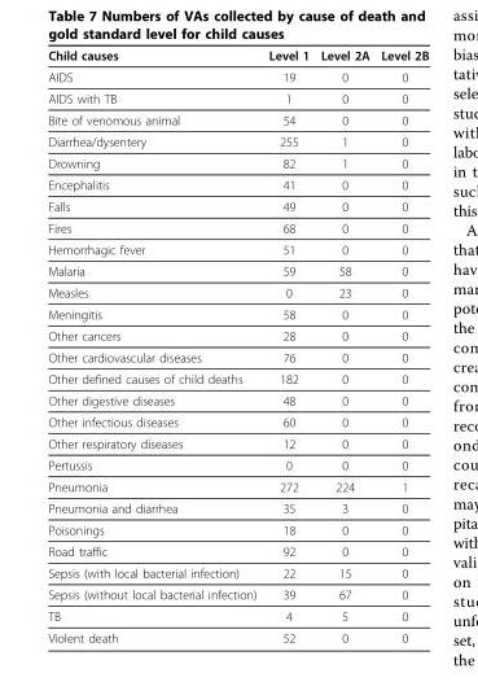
<table><thead><tr><td>Child causes</td><td>Level 1</td><td>Level 2A</td><td>Level 2B</td></tr></thead><tbody><tr><td>AIDS</td><td>19</td><td>0</td><td>0</td></tr><tr><td>AIDS with TB</td><td>1</td><td>0</td><td>0</td></tr><tr><td>Bite of venomous animal</td><td>54</td><td>0</td><td>0</td></tr><tr><td>Diarrhea/dysentery</td><td>255</td><td>1</td><td>0</td></tr><tr><td>Drowning</td><td>82</td><td>1</td><td>0</td></tr><tr><td>Encephalitis</td><td>41</td><td>0</td><td>0</td></tr><tr><td>Falls</td><td>49</td><td>0</td><td>0</td></tr><tr><td>Fires</td><td>68</td><td>0</td><td>0</td></tr><tr><td>Hemorrhagic fever</td><td>51</td><td>0</td><td>0</td></tr><tr><td>Malaria</td><td>59</td><td>58</td><td>0</td></tr><tr><td>Measles</td><td>0</td><td>23</td><td>0</td></tr><tr><td>Meningitis</td><td>58</td><td>0</td><td>0</td></tr><tr><td>Other cancers</td><td>28</td><td>0</td><td>0</td></tr><tr><td>Other cardiovascular diseases</td><td>76</td><td>0</td><td>0</td></tr><tr><td>Other defined causes of child deaths</td><td>182</td><td>0</td><td>0</td></tr><tr><td>Other digestive diseases</td><td>48</td><td>0</td><td>0</td></tr><tr><td>Other infectious diseases</td><td>60</td><td>0</td><td>0</td></tr><tr><td>Other respiratory diseases</td><td>12</td><td>0</td><td>0</td></tr><tr><td>Pertussis</td><td>0</td><td>0</td><td>0</td></tr><tr><td>Pneumonia</td><td>272</td><td>224</td><td>1</td></tr><tr><td>Pneumonia and diarrhea</td><td>35</td><td>3</td><td>0</td></tr><tr><td>Poisonings</td><td>18</td><td>0</td><td>0</td></tr><tr><td>Road traffic</td><td>92</td><td>0</td><td>0</td></tr><tr><td>Sepsis (with local bacterial infection)</td><td>22</td><td>15</td><td>0</td></tr><tr><td>Sepsis (without local bacterial infection)</td><td>39</td><td>67</td><td>0</td></tr><tr><td>TB</td><td>4</td><td>5</td><td>0</td></tr><tr><td>Violent death</td><td>52</td><td>0</td><td>0</td></tr></tbody></table>